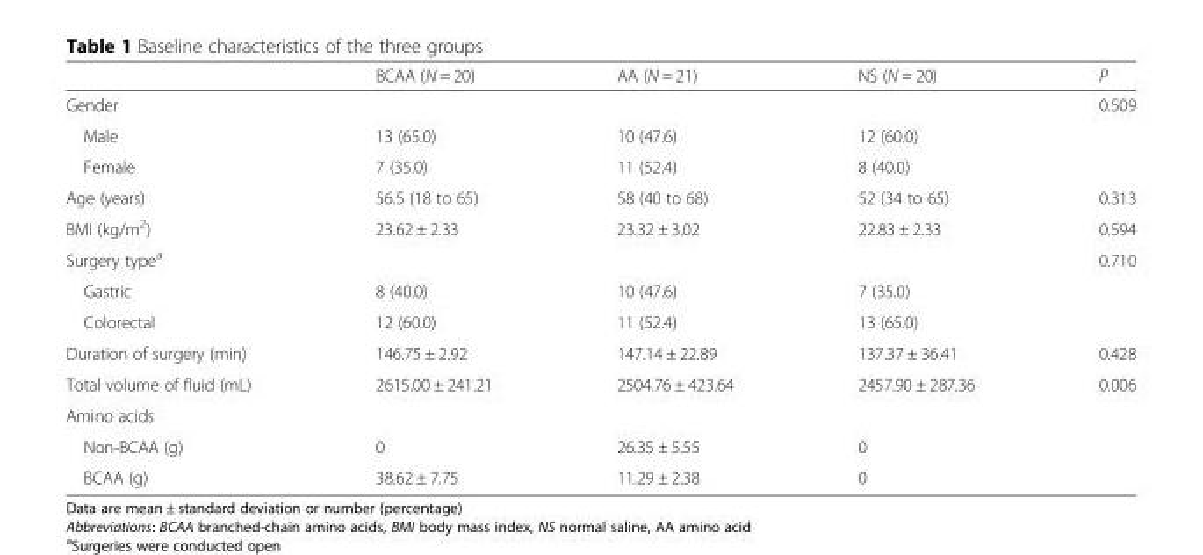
<table><thead><tr><td></td><td>BCAA (N = 20)</td><td>AA (N = 21)</td><td>NS (N = 20)</td><td>P</td></tr></thead><tbody><tr><td>Gender</td><td></td><td></td><td></td><td>0.509</td></tr><tr><td>Male</td><td>13 (65.0)</td><td>10 (47.6)</td><td>12 (60.0)</td><td></td></tr><tr><td>Female</td><td>7 (35.0)</td><td>11 (52.4)</td><td>8 (40.0)</td><td></td></tr><tr><td>Age (years)</td><td>56.5 (18 to 65)</td><td>58 (40 to 68)</td><td>52 (34 to 65)</td><td>0.313</td></tr><tr><td>BMI (kg/m<sup>2</sup>)</td><td>23.62 ± 2.33</td><td>23.32 ± 3.02</td><td>22.83 ± 2.33</td><td>0.594</td></tr><tr><td>Surgery type<sup>a</sup></td><td></td><td></td><td></td><td>0.710</td></tr><tr><td>Gastric</td><td>8 (40.0)</td><td>10 (47.6)</td><td>7 (35.0)</td><td></td></tr><tr><td>Colorectal</td><td>12 (60.0)</td><td>11 (52.4)</td><td>13 (65.0)</td><td></td></tr><tr><td>Duration of surgery (min)</td><td>146.75 ± 2.92</td><td>147.14 ± 22.89</td><td>137.37 ± 36.41</td><td>0.428</td></tr><tr><td>Total volume of fluid (mL)</td><td>2615.00 ± 241.21</td><td>2504.76 ± 423.64</td><td>2457.90 ± 287.36</td><td>0.006</td></tr><tr><td colspan="5">Amino acids</td></tr><tr><td>Non-BCAA (g)</td><td>0</td><td>26.35 ± 5.55</td><td>0</td><td></td></tr><tr><td>BCAA (g)</td><td>38.62 ± 7.75</td><td>11.29 ± 2.38</td><td>0</td><td></td></tr></tbody></table>